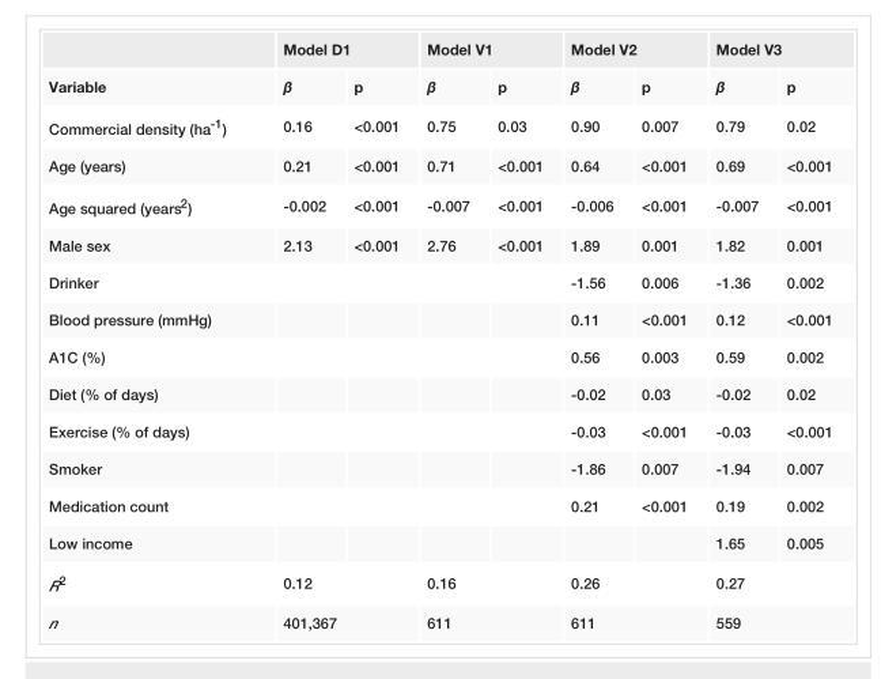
<table><thead><tr><td rowspan="2">Variable</td><td colspan="2">Model D1</td><td colspan="2">Model V1</td><td colspan="2">Model V2</td><td colspan="2">Model V3</td></tr><tr><td>β</td><td>p</td><td>β</td><td>p</td><td>β</td><td>p</td><td>β</td><td>p</td></tr></thead><tbody><tr><td>Commercial density (ha<sup>-1</sup>)</td><td>0.16</td><td>&lt;0.001</td><td>0.75</td><td>0.03</td><td>0.90</td><td>0.007</td><td>0.79</td><td>0.02</td></tr><tr><td>Age (years)</td><td>0.21</td><td>&lt;0.001</td><td>0.71</td><td>&lt;0.001</td><td>0.64</td><td>&lt;0.001</td><td>0.69</td><td>&lt;0.001</td></tr><tr><td>Age squared (years<sup>2</sup>)</td><td>-0.002</td><td>&lt;0.001</td><td>-0.007</td><td>&lt;0.001</td><td>-0.006</td><td>&lt;0.001</td><td>-0.007</td><td>&lt;0.001</td></tr><tr><td>Male sex</td><td>2.13</td><td>&lt;0.001</td><td>2.76</td><td>&lt;0.001</td><td>1.89</td><td>0.001</td><td>1.82</td><td>0.001</td></tr><tr><td>Drinker</td><td></td><td></td><td></td><td></td><td>-1.56</td><td>0.006</td><td>-1.36</td><td>0.002</td></tr><tr><td>Blood pressure (mmHg)</td><td></td><td></td><td></td><td></td><td>0.11</td><td>&lt;0.001</td><td>0.12</td><td>&lt;0.001</td></tr><tr><td>A1C (%)</td><td></td><td></td><td></td><td></td><td>0.56</td><td>0.003</td><td>0.59</td><td>0.002</td></tr><tr><td>Diet (% of days)</td><td></td><td></td><td></td><td></td><td>-0.02</td><td>0.03</td><td>-0.02</td><td>0.02</td></tr><tr><td>Exercise (% of days)</td><td></td><td></td><td></td><td></td><td>-0.03</td><td>&lt;0.001</td><td>-0.03</td><td>&lt;0.001</td></tr><tr><td>Smoker</td><td></td><td></td><td></td><td></td><td>-1.86</td><td>0.007</td><td>-1.94</td><td>0.007</td></tr><tr><td>Medication count</td><td></td><td></td><td></td><td></td><td>0.21</td><td>&lt;0.001</td><td>0.19</td><td>0.002</td></tr><tr><td>Low income</td><td></td><td></td><td></td><td></td><td></td><td></td><td>1.65</td><td>0.005</td></tr><tr><td>R<sup>2</sup></td><td colspan="2">0.12</td><td colspan="2">0.16</td><td colspan="2">0.26</td><td colspan="2">0.27</td></tr><tr><td>n</td><td colspan="2">401,367</td><td colspan="2">611</td><td colspan="2">611</td><td colspan="2">559</td></tr></tbody></table>